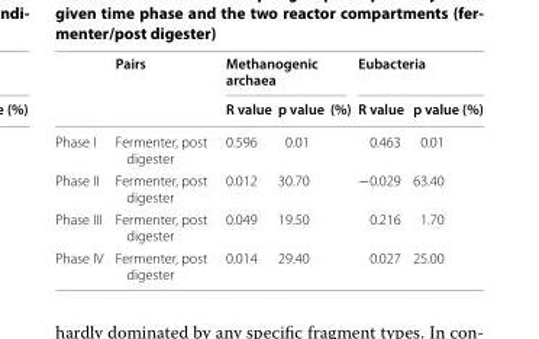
<table><thead><tr><td rowspan="2"></td><td rowspan="2">Pairs</td><td colspan="2">Methanogenic archaea</td><td colspan="2">Eubacteria</td></tr><tr><td>R value</td><td>p value (%)</td><td>R value</td><td>p value (%)</td></tr></thead><tbody><tr><td>Phase I</td><td>Fermenter, post digester</td><td>0.596</td><td>0.01</td><td>0.463</td><td>0.01</td></tr><tr><td>Phase II</td><td>Fermenter, post digester</td><td>0.012</td><td>30.70</td><td>−0.029</td><td>63.40</td></tr><tr><td>Phase III</td><td>Fermenter, post digester</td><td>0.049</td><td>19.50</td><td>0.216</td><td>1.70</td></tr><tr><td>Phase IV</td><td>Fermenter, post digester</td><td>0.014</td><td>29.40</td><td>0.027</td><td>25.00</td></tr></tbody></table>